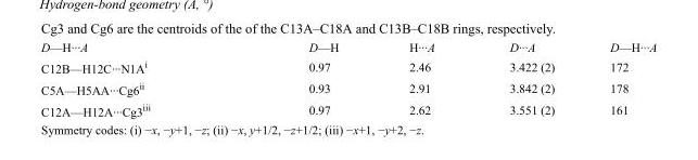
<table><tbody><tr><td>D—H···A</td><td>D—H</td><td>H···A</td><td>D···A</td><td>D—H···A</td></tr><tr><td>C12B—H12C···N1A<sup>i</sup></td><td>0.97</td><td>2.46</td><td>3.422 (2)</td><td>172</td></tr><tr><td>C5A—H5AA···Cg6<sup>ii</sup></td><td>0.93</td><td>2.91</td><td>3.842 (2)</td><td>178</td></tr><tr><td>C12A—H12A···Cg3<sup>iii</sup></td><td>0.97</td><td>2.62</td><td>3.551 (2)</td><td>161</td></tr></tbody></table>